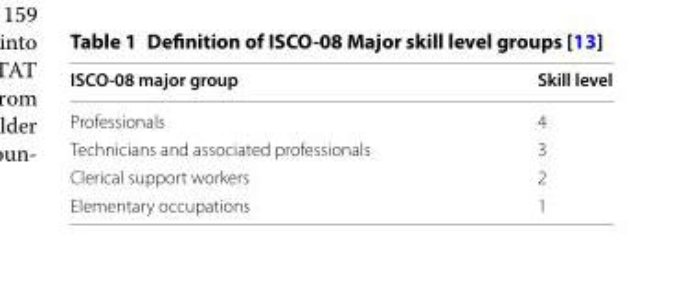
<table><thead><tr><td>ISCO-08 major group</td><td>Skill level</td></tr></thead><tbody><tr><td>Professionals</td><td>4</td></tr><tr><td>Technicians and associated professionals</td><td>3</td></tr><tr><td>Clerical support workers</td><td>2</td></tr><tr><td>Elementary occupations</td><td>1</td></tr></tbody></table>